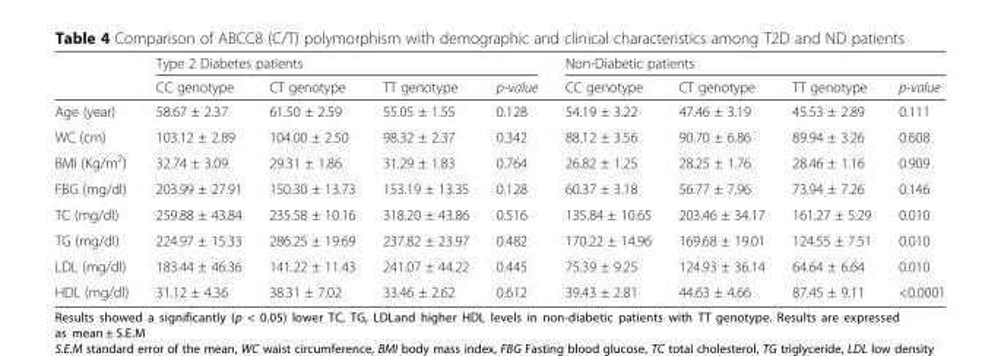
<table><thead><tr><td rowspan="2"></td><td colspan="4">Type 2 Diabetes patients</td><td colspan="4">Non-Diabetic patients</td></tr><tr><td>CC genotype</td><td>CT genotype</td><td>TT genotype</td><td>p-value</td><td>CC genotype</td><td>CT genotype</td><td>TT genotype</td><td>p-value</td></tr></thead><tbody><tr><td>Age (year)</td><td>58.67 ± 2.37</td><td>61.50 ± 2.59</td><td>55.05 ± 1.55</td><td>0.128</td><td>54.19 ± 3.22</td><td>47.46 ± 3.19</td><td>45.53 ± 2.89</td><td>0.111</td></tr><tr><td>WC (cm)</td><td>103.12 ± 2.89</td><td>104.00 ± 2.50</td><td>98.32 ± 2.37</td><td>0.342</td><td>88.12 ± 3.56</td><td>90.70 ± 6.86</td><td>89.94 ± 3.26</td><td>0.608</td></tr><tr><td>BMI (Kg/m<sup>2</sup>)</td><td>32.74 ± 3.09</td><td>29.31 ± 1.86</td><td>31.29 ± 1.83</td><td>0.764</td><td>26.82 ± 1.25</td><td>28.25 ± 1.76</td><td>28.46 ± 1.16</td><td>0.909</td></tr><tr><td>FBG (mg/dl)</td><td>203.99 ± 27.91</td><td>150.30 ± 13.73</td><td>153.19 ± 13.35</td><td>0.128</td><td>60.37 ± 3.18</td><td>56.77 ± 7.96</td><td>73.94 ± 7.26</td><td>0.146</td></tr><tr><td>TC (mg/dl)</td><td>259.88 ± 43.84</td><td>235.58 ± 10.16</td><td>318.20 ± 43.86</td><td>0.516</td><td>135.84 ± 10.65</td><td>203.46 ± 34.17</td><td>161.27 ± 5.29</td><td>0.010</td></tr><tr><td>TG (mg/dl)</td><td>224.97 ± 15.33</td><td>286.25 ± 19.69</td><td>237.82 ± 23.97</td><td>0.482</td><td>170.22 ± 14.96</td><td>169.68 ± 19.01</td><td>124.55 ± 7.51</td><td>0.010</td></tr><tr><td>LDL (mg/dl)</td><td>183.44 ± 46.36</td><td>141.22 ± 11.43</td><td>241.07 ± 44.22</td><td>0.445</td><td>75.39 ± 9.25</td><td>124.93 ± 36.14</td><td>64.64 ± 6.64</td><td>0.010</td></tr><tr><td>HDL (mg/dl)</td><td>31.12 ± 4.36</td><td>38.31 ± 7.02</td><td>33.46 ± 2.62</td><td>0.612</td><td>39.43 ± 2.81</td><td>44.63 ± 4.66</td><td>87.45 ± 9.11</td><td>&lt;0.0001</td></tr></tbody></table>